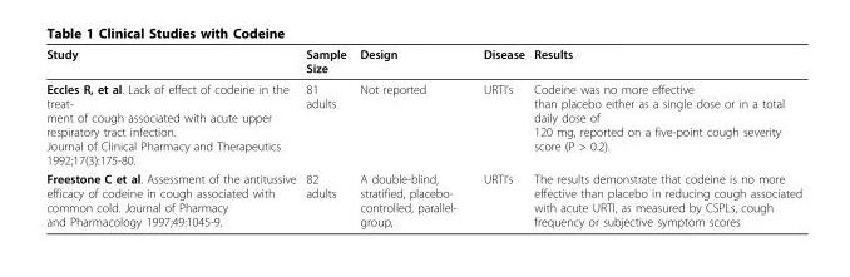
<table><thead><tr><td>Study</td><td>Sample Size</td><td>Design</td><td>Disease</td><td>Results</td></tr></thead><tbody><tr><td>Eccles R, et al. Lack of effect of codeine in the treat- ment of cough associated with acute upper respiratory tract infection. Journal of Clinical Pharmacy and Therapeutics 1992;17(3):175-80.</td><td>81 adults</td><td>Not reported</td><td>URTI’s</td><td>Codeine was no more effective than placebo either as a single dose or in a total daily dose of 120 mg, reported on a five-point cough severity score (P &gt; 0.2).</td></tr><tr><td>Freestone C et al. Assessment of the antitussive efficacy of codeine in cough associated with common cold. Journal of Pharmacy and Pharmacology 1997;49:1045-9.</td><td>82 adults</td><td>A double-blind, stratified, placebo- controlled, parallel- group,</td><td>URTI’s</td><td>The results demonstrate that codeine is no more effective than placebo in reducing cough associated with acute URTI, as measured by CSPLs, cough frequency or subjective symptom scores</td></tr></tbody></table>